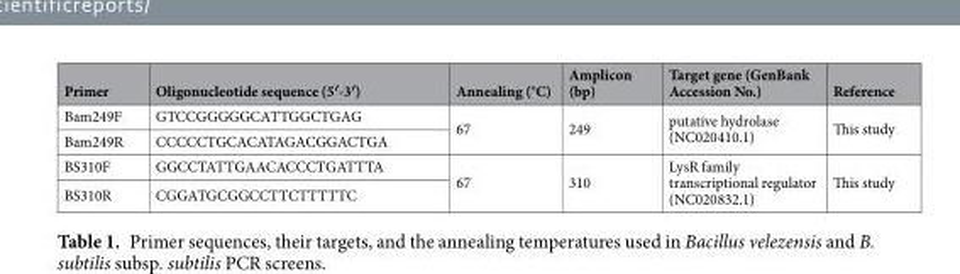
<table><thead><tr><td>Primer</td><td>Oligonucleotide sequence (5′-3′)</td><td>Annealing (°C)</td><td>Amplicon (bp)</td><td>Target gene (GenBank Accession No.)</td><td>Reference</td></tr></thead><tbody><tr><td>Bam249F</td><td>GTCCGGGGGCATTGGCTGAG</td><td rowspan="2">67</td><td rowspan="2">249</td><td rowspan="2">putative hydrolase (NC020410.1)</td><td rowspan="2">This study</td></tr><tr><td>Bam249R</td><td>CCCCCTGCACATAGACGGACTGA</td></tr><tr><td>BS310F</td><td>GGCCTATTGAACACCCTGATTTA</td><td rowspan="2">67</td><td rowspan="2">310</td><td rowspan="2">LysR family transcriptional regulator (NC020832.1)</td><td rowspan="2">This study</td></tr><tr><td>BS310R</td><td>CGGATGCGGCCTTCTTTTTC</td></tr></tbody></table>